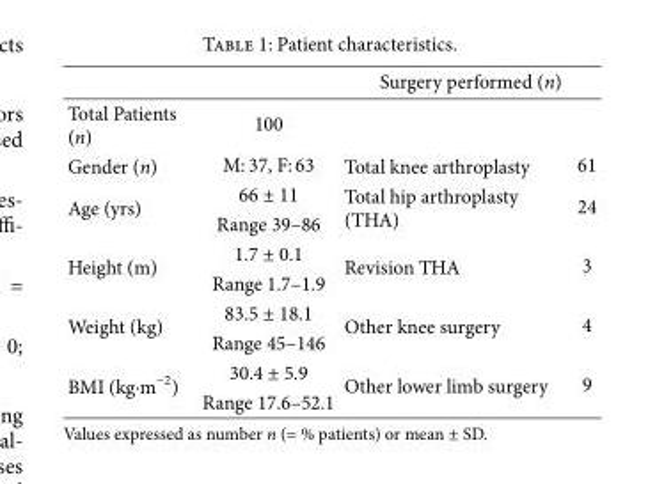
<table><thead><tr><td rowspan="2">Total Patients (n)</td><td rowspan="2">100</td><td colspan="2">Surgery performed (n)</td></tr><tr><td></td><td></td></tr></thead><tbody><tr><td>Gender (n)</td><td>M: 37, F: 63</td><td>Total knee arthroplasty</td><td>61</td></tr><tr><td rowspan="2">Age (yrs)</td><td>66 ± 11</td><td rowspan="2">Total hip arthroplasty (THA)</td><td rowspan="2">24</td></tr><tr><td>Range 39–86</td></tr><tr><td rowspan="2">Height (m)</td><td>1.7 ± 0.1</td><td rowspan="2">Revision THA</td><td rowspan="2">3</td></tr><tr><td>Range 1.7–1.9</td></tr><tr><td rowspan="2">Weight (kg)</td><td>83.5 ± 18.1</td><td rowspan="2">Other knee surgery</td><td rowspan="2">4</td></tr><tr><td>Range 45–146</td></tr><tr><td rowspan="2">BMI (kg⋅m−2)</td><td>30.4 ± 5.9</td><td rowspan="2">Other lower limb surgery</td><td rowspan="2">9</td></tr><tr><td>Range 17.6–52.1</td></tr></tbody></table>